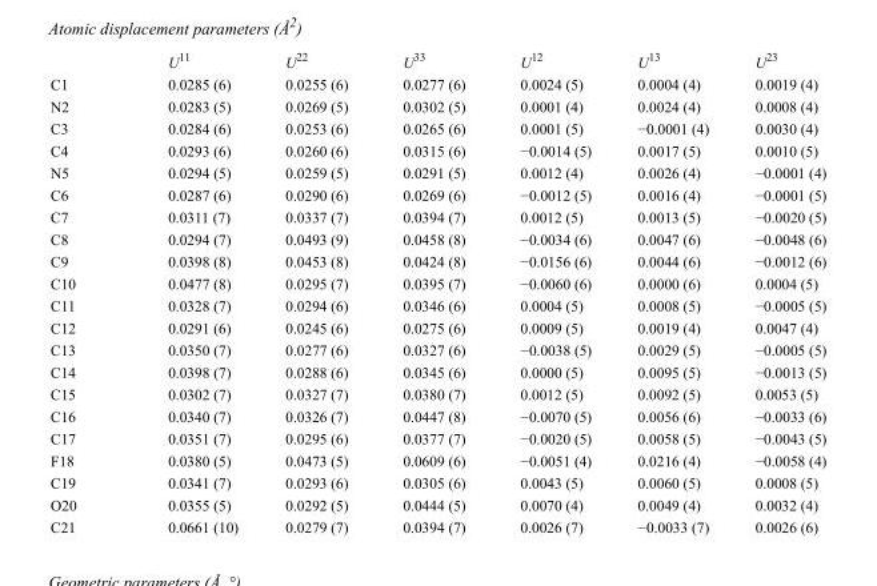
<table><thead><tr><td></td><td>U<sup>11</sup></td><td>U<sup>22</sup></td><td>U<sup>33</sup></td><td>U<sup>12</sup></td><td>U<sup>13</sup></td><td>U<sup>23</sup></td></tr></thead><tbody><tr><td>C1</td><td>0.0285 (6)</td><td>0.0255 (6)</td><td>0.0277 (6)</td><td>0.0024 (5)</td><td>0.0004 (4)</td><td>0.0019 (4)</td></tr><tr><td>N2</td><td>0.0283 (5)</td><td>0.0269 (5)</td><td>0.0302 (5)</td><td>0.0001 (4)</td><td>0.0024 (4)</td><td>0.0008 (4)</td></tr><tr><td>C3</td><td>0.0284 (6)</td><td>0.0253 (6)</td><td>0.0265 (6)</td><td>0.0001 (5)</td><td>−0.0001 (4)</td><td>0.0030 (4)</td></tr><tr><td>C4</td><td>0.0293 (6)</td><td>0.0260 (6)</td><td>0.0315 (6)</td><td>−0.0014 (5)</td><td>0.0017 (5)</td><td>0.0010 (5)</td></tr><tr><td>N5</td><td>0.0294 (5)</td><td>0.0259 (5)</td><td>0.0291 (5)</td><td>0.0012 (4)</td><td>0.0026 (4)</td><td>−0.0001 (4)</td></tr><tr><td>C6</td><td>0.0287 (6)</td><td>0.0290 (6)</td><td>0.0269 (6)</td><td>−0.0012 (5)</td><td>0.0016 (4)</td><td>−0.0001 (5)</td></tr><tr><td>C7</td><td>0.0311 (7)</td><td>0.0337 (7)</td><td>0.0394 (7)</td><td>0.0012 (5)</td><td>0.0013 (5)</td><td>−0.0020 (5)</td></tr><tr><td>C8</td><td>0.0294 (7)</td><td>0.0493 (9)</td><td>0.0458 (8)</td><td>−0.0034 (6)</td><td>0.0047 (6)</td><td>−0.0048 (6)</td></tr><tr><td>C9</td><td>0.0398 (8)</td><td>0.0453 (8)</td><td>0.0424 (8)</td><td>−0.0156 (6)</td><td>0.0044 (6)</td><td>−0.0012 (6)</td></tr><tr><td>C10</td><td>0.0477 (8)</td><td>0.0295 (7)</td><td>0.0395 (7)</td><td>−0.0060 (6)</td><td>0.0000 (6)</td><td>0.0004 (5)</td></tr><tr><td>C11</td><td>0.0328 (7)</td><td>0.0294 (6)</td><td>0.0346 (6)</td><td>0.0004 (5)</td><td>0.0008 (5)</td><td>−0.0005 (5)</td></tr><tr><td>C12</td><td>0.0291 (6)</td><td>0.0245 (6)</td><td>0.0275 (6)</td><td>0.0009 (5)</td><td>0.0019 (4)</td><td>0.0047 (4)</td></tr><tr><td>C13</td><td>0.0350 (7)</td><td>0.0277 (6)</td><td>0.0327 (6)</td><td>−0.0038 (5)</td><td>0.0029 (5)</td><td>−0.0005 (5)</td></tr><tr><td>C14</td><td>0.0398 (7)</td><td>0.0288 (6)</td><td>0.0345 (6)</td><td>0.0000 (5)</td><td>0.0095 (5)</td><td>−0.0013 (5)</td></tr><tr><td>C15</td><td>0.0302 (7)</td><td>0.0327 (7)</td><td>0.0380 (7)</td><td>0.0012 (5)</td><td>0.0092 (5)</td><td>0.0053 (5)</td></tr><tr><td>C16</td><td>0.0340 (7)</td><td>0.0326 (7)</td><td>0.0447 (8)</td><td>−0.0070 (5)</td><td>0.0056 (6)</td><td>−0.0033 (6)</td></tr><tr><td>C17</td><td>0.0351 (7)</td><td>0.0295 (6)</td><td>0.0377 (7)</td><td>−0.0020 (5)</td><td>0.0058 (5)</td><td>−0.0043 (5)</td></tr><tr><td>F18</td><td>0.0380 (5)</td><td>0.0473 (5)</td><td>0.0609 (6)</td><td>−0.0051 (4)</td><td>0.0216 (4)</td><td>−0.0058 (4)</td></tr><tr><td>C19</td><td>0.0341 (7)</td><td>0.0293 (6)</td><td>0.0305 (6)</td><td>0.0043 (5)</td><td>0.0060 (5)</td><td>0.0008 (5)</td></tr><tr><td>O20</td><td>0.0355 (5)</td><td>0.0292 (5)</td><td>0.0444 (5)</td><td>0.0070 (4)</td><td>0.0049 (4)</td><td>0.0032 (4)</td></tr><tr><td>C21</td><td>0.0661 (10)</td><td>0.0279 (7)</td><td>0.0394 (7)</td><td>0.0026 (7)</td><td>−0.0033 (7)</td><td>0.0026 (6)</td></tr></tbody></table>